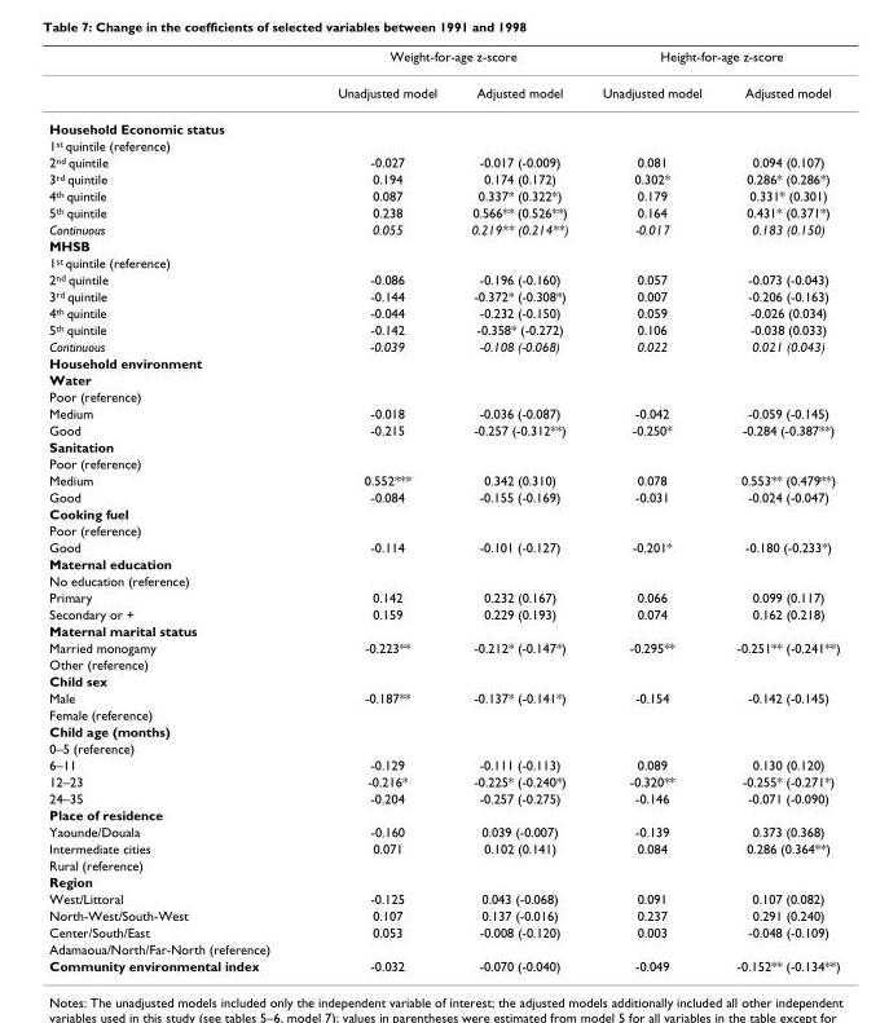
<table><thead><tr><td rowspan="2"></td><td colspan="2">Weight-for-age z-score</td><td colspan="2">Height-for-age z-score</td></tr><tr><td>Unadjusted model</td><td>Adjusted model</td><td>Unadjusted model</td><td>Adjusted model</td></tr></thead><tbody><tr><td colspan="5">Household Economic status</td></tr><tr><td colspan="5">1st quintile (reference)</td></tr><tr><td>2nd quintile</td><td>-0.027</td><td>-0.017 (-0.009)</td><td>0.081</td><td>0.094 (0.107)</td></tr><tr><td>3rd quintile</td><td>0.194</td><td>0.174 (0.172)</td><td>0.302*</td><td>0.286* (0.286*)</td></tr><tr><td>4th quintile</td><td>0.087</td><td>0.337* (0.322*)</td><td>0.179</td><td>0.331* (0.301)</td></tr><tr><td>5th quintile</td><td>0.238</td><td>0.566** (0.526**)</td><td>0.164</td><td>0.431* (0.371*)</td></tr><tr><td>Continuous</td><td>0.055</td><td>0.219** (0.214**)</td><td>-0.017</td><td>0.183 (0.150)</td></tr><tr><td colspan="5">MHSB</td></tr><tr><td colspan="5">1st quintile (reference)</td></tr><tr><td>2nd quintile</td><td>-0.086</td><td>-0.196 (-0.160)</td><td>0.057</td><td>-0.073 (-0.043)</td></tr><tr><td>3rd quintile</td><td>-0.144</td><td>-0.372* (-0.308*)</td><td>0.007</td><td>-0.206 (-0.163)</td></tr><tr><td>4th quintile</td><td>-0.044</td><td>-0.232 (-0.150)</td><td>0.059</td><td>-0.026 (0.034)</td></tr><tr><td>5th quintile</td><td>-0.142</td><td>-0.358* (-0.272)</td><td>0.106</td><td>-0.038 (0.033)</td></tr><tr><td>Continuous</td><td>-0.039</td><td>-0.108 (-0.068)</td><td>0.022</td><td>0.021 (0.043)</td></tr><tr><td colspan="5">Household environment</td></tr><tr><td colspan="5">Water</td></tr><tr><td colspan="5">Poor (reference)</td></tr><tr><td>Medium</td><td>-0.018</td><td>-0.036 (-0.087)</td><td>-0.042</td><td>-0.059 (-0.145)</td></tr><tr><td>Good</td><td>-0.215</td><td>-0.257 (-0.312**)</td><td>-0.250*</td><td>-0.284 (-0.387**)</td></tr><tr><td colspan="5">Sanitation</td></tr><tr><td colspan="5">Poor (reference)</td></tr><tr><td>Medium</td><td>0.552***</td><td>0.342 (0.310)</td><td>0.078</td><td>0.553** (0.479**)</td></tr><tr><td>Good</td><td>-0.084</td><td>-0.155 (-0.169)</td><td>-0.031</td><td>-0.024 (-0.047)</td></tr><tr><td colspan="5">Cooking fuel</td></tr><tr><td colspan="5">Poor (reference)</td></tr><tr><td>Good</td><td>-0.114</td><td>-0.101 (-0.127)</td><td>-0.201*</td><td>-0.180 (-0.233*)</td></tr><tr><td colspan="5">Maternal education</td></tr><tr><td colspan="5">No education (reference)</td></tr><tr><td>Primary</td><td>0.142</td><td>0.232 (0.167)</td><td>0.066</td><td>0.099 (0.117)</td></tr><tr><td>Secondary or +</td><td>0.159</td><td>0.229 (0.193)</td><td>0.074</td><td>0.162 (0.218)</td></tr><tr><td colspan="5">Maternal marital status</td></tr><tr><td>Married monogamy</td><td>-0.223**</td><td>-0.212* (-0.147*)</td><td>-0.295**</td><td>-0.251** (-0.241**)</td></tr><tr><td colspan="5">Other (reference)</td></tr><tr><td colspan="5">Child sex</td></tr><tr><td>Male</td><td>-0.187**</td><td>-0.137* (-0.141*)</td><td>-0.154</td><td>-0.142 (-0.145)</td></tr><tr><td colspan="5">Female (reference)</td></tr><tr><td colspan="5">Child age (months)</td></tr><tr><td colspan="5">0–5 (reference)</td></tr><tr><td>6–11</td><td>-0.129</td><td>-0.111 (-0.113)</td><td>0.089</td><td>0.130 (0.120)</td></tr><tr><td>12–23</td><td>-0.216*</td><td>-0.225* (-0.240*)</td><td>-0.320**</td><td>-0.255* (-0.271*)</td></tr><tr><td>24–35</td><td>-0.204</td><td>-0.257 (-0.275)</td><td>-0.146</td><td>-0.071 (-0.090)</td></tr><tr><td colspan="5">Place of residence</td></tr><tr><td>Yaounde/Douala</td><td>-0.160</td><td>0.039 (-0.007)</td><td>-0.139</td><td>0.373 (0.368)</td></tr><tr><td>Intermediate cities</td><td>0.071</td><td>0.102 (0.141)</td><td>0.084</td><td>0.286 (0.364**)</td></tr><tr><td colspan="5">Rural (reference)</td></tr><tr><td colspan="5">Region</td></tr><tr><td>West/Littoral</td><td>-0.125</td><td>0.043 (-0.068)</td><td>0.091</td><td>0.107 (0.082)</td></tr><tr><td>North-West/South-West</td><td>0.107</td><td>0.137 (-0.016)</td><td>0.237</td><td>0.291 (0.240)</td></tr><tr><td>Center/South/East</td><td>0.053</td><td>-0.008 (-0.120)</td><td>0.003</td><td>-0.048 (-0.109)</td></tr><tr><td colspan="5">Adamaoua/North/Far-North (reference)</td></tr><tr><td>Community environmental index</td><td>-0.032</td><td>-0.070 (-0.040)</td><td>-0.049</td><td>-0.152** (-0.134**)</td></tr></tbody></table>